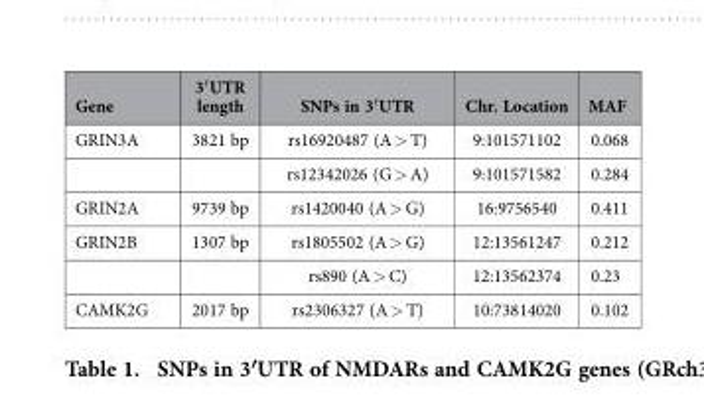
<table><thead><tr><td>Gene</td><td>3′ UTR length</td><td>SNPs in 3′ UTR</td><td>Chr. Location</td><td>MAF</td></tr></thead><tbody><tr><td rowspan="2">GRIN3A</td><td>3821 bp</td><td>rs16920487 (A &gt; T)</td><td>9:101571102</td><td>0.068</td></tr><tr><td></td><td>rs12342026 (G &gt; A)</td><td>9:101571582</td><td>0.284</td></tr><tr><td>GRIN2A</td><td>9739 bp</td><td>rs1420040 (A &gt; G)</td><td>16:9756540</td><td>0.411</td></tr><tr><td rowspan="2">GRIN2B</td><td>1307 bp</td><td>rs1805502 (A &gt; G)</td><td>12:13561247</td><td>0.212</td></tr><tr><td></td><td>rs890 (A &gt; C)</td><td>12:13562374</td><td>0.23</td></tr><tr><td>CAMK2G</td><td>2017 bp</td><td>rs2306327 (A &gt; T)</td><td>10:73814020</td><td>0.102</td></tr></tbody></table>